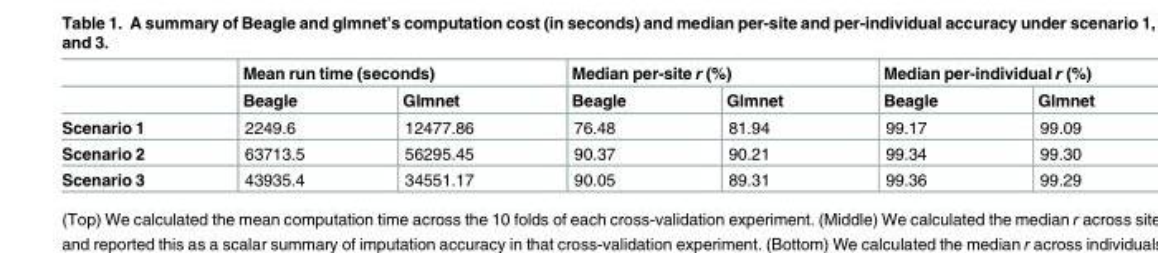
<table><thead><tr><td rowspan="2"></td><td colspan="2">Mean run time (seconds)</td><td colspan="2">Median per-site r (%)</td><td colspan="2">Median per-individual r (%)</td></tr><tr><td>Beagle</td><td>Glmnet</td><td>Beagle</td><td>Glmnet</td><td>Beagle</td><td>Glmnet</td></tr></thead><tbody><tr><td>Scenario 1</td><td>2249.6</td><td>12477.86</td><td>76.48</td><td>81.94</td><td>99.17</td><td>99.09</td></tr><tr><td>Scenario 2</td><td>63713.5</td><td>56295.45</td><td>90.37</td><td>90.21</td><td>99.34</td><td>99.30</td></tr><tr><td>Scenario 3</td><td>43935.4</td><td>34551.17</td><td>90.05</td><td>89.31</td><td>99.36</td><td>99.29</td></tr></tbody></table>